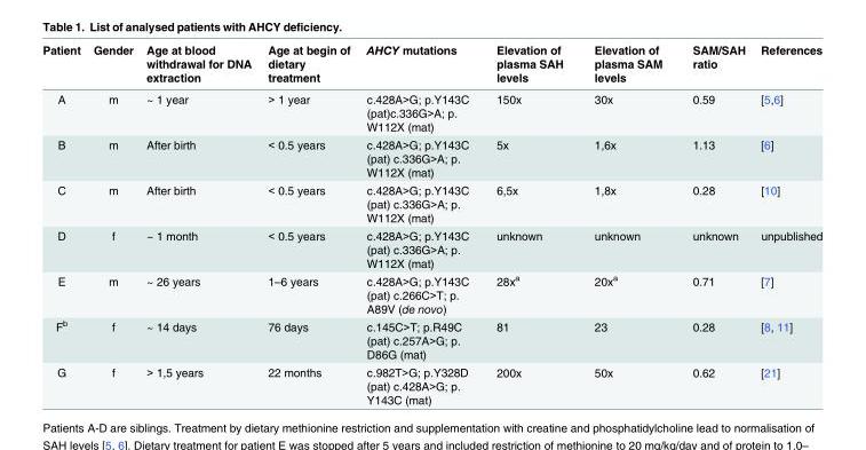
<table><thead><tr><td>Patient</td><td>Gender</td><td>Age at blood withdrawal for DNA extraction</td><td>Age at begin of dietary treatment</td><td>AHCY mutations</td><td>Elevation of plasma SAH levels</td><td>Elevation of plasma SAM levels</td><td>SAM/SAH ratio</td><td>References</td></tr></thead><tbody><tr><td>A</td><td>m</td><td>~ 1 year</td><td>&gt; 1 year</td><td>c.428A&gt;G; p.Y143C (pat)c.336G&gt;A; p. W112X (mat)</td><td>150x</td><td>30x</td><td>0.59</td><td>[5,6]</td></tr><tr><td>B</td><td>m</td><td>After birth</td><td>&lt; 0.5 years</td><td>c.428A&gt;G; p.Y143C (pat) c.336G&gt;A; p. W112X (mat)</td><td>5x</td><td>1,6x</td><td>1.13</td><td>[6]</td></tr><tr><td>C</td><td>m</td><td>After birth</td><td>&lt; 0.5 years</td><td>c.428A&gt;G; p.Y143C (pat) c.336G&gt;A; p. W112X (mat)</td><td>6,5x</td><td>1,8x</td><td>0.28</td><td>[10]</td></tr><tr><td>D</td><td>f</td><td>~ 1 month</td><td>&lt; 0.5 years</td><td>c.428A&gt;G; p.Y143C (pat) c.336G&gt;A; p. W112X (mat)</td><td>unknown</td><td>unknown</td><td>unknown</td><td>unpublished</td></tr><tr><td>E</td><td>m</td><td>~ 26 years</td><td>1–6 years</td><td>c.428A&gt;G; p.Y143C (pat) c.266C&gt;T; p. A89V (de novo)</td><td>28x<sup>a</sup></td><td>20x<sup>a</sup></td><td>0.71</td><td>[7]</td></tr><tr><td>F<sup>b</sup></td><td>f</td><td>~ 14 days</td><td>76 days</td><td>c.145C&gt;T; p.R49C (pat) c.257A&gt;G; p. D86G (mat)</td><td>81</td><td>23</td><td>0.28</td><td>[8, 11]</td></tr><tr><td>G</td><td>f</td><td>&gt; 1,5 years</td><td>22 months</td><td>c.982T&gt;G; p.Y328D (pat) c.428A&gt;G; p. Y143C (mat)</td><td>200x</td><td>50x</td><td>0.62</td><td>[21]</td></tr></tbody></table>